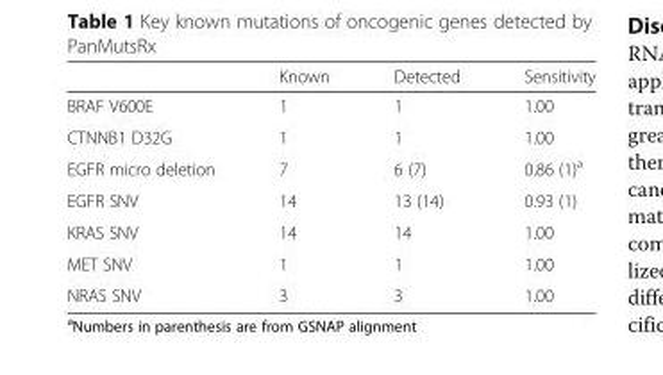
<table><thead><tr><td></td><td>Known</td><td>Detected</td><td>Sensitivity</td></tr></thead><tbody><tr><td>BRAF V600E</td><td>1</td><td>1</td><td>1.00</td></tr><tr><td>CTNNB1 D32G</td><td>1</td><td>1</td><td>1.00</td></tr><tr><td>EGFR micro deletion</td><td>7</td><td>6 (7)</td><td>0.86 (1)<sup>a</sup></td></tr><tr><td>EGFR SNV</td><td>14</td><td>13 (14)</td><td>0.93 (1)</td></tr><tr><td>KRAS SNV</td><td>14</td><td>14</td><td>1.00</td></tr><tr><td>MET SNV</td><td>1</td><td>1</td><td>1.00</td></tr><tr><td>NRAS SNV</td><td>3</td><td>3</td><td>1.00</td></tr></tbody></table>